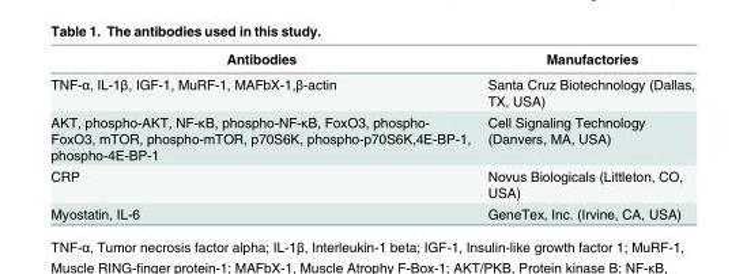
<table><thead><tr><td>Antibodies</td><td>Manufactories</td></tr></thead><tbody><tr><td>TNF-α, IL-1β, IGF-1, MuRF-1, MAFbX-1,β-actin</td><td>Santa Cruz Biotechnology (Dallas, TX, USA)</td></tr><tr><td>AKT, phospho-AKT, NF-κB, phospho-NF-κB, FoxO3, phospho- FoxO3, mTOR, phospho-mTOR, p70S6K, phospho-p70S6K,4E-BP-1, phospho-4E-BP-1</td><td>Cell Signaling Technology (Danvers, MA, USA)</td></tr><tr><td>CRP</td><td>Novus Biologicals (Littleton, CO, USA)</td></tr><tr><td>Myostatin, IL-6</td><td>GeneTex, Inc. (Irvine, CA, USA)</td></tr></tbody></table>